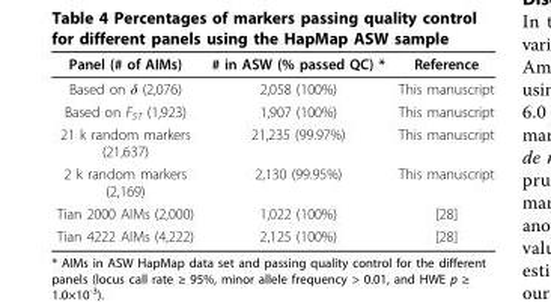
<table><thead><tr><td>Panel (# of AIMs)</td><td># in ASW (% passed QC) *</td><td>Reference</td></tr></thead><tbody><tr><td>Based on δ (2,076)</td><td>2,058 (100%)</td><td>This manuscript</td></tr><tr><td>Based on F<sub>ST</sub> (1,923)</td><td>1,907 (100%)</td><td>This manuscript</td></tr><tr><td>21 k random markers (21,637)</td><td>21,235 (99.97%)</td><td>This manuscript</td></tr><tr><td>2 k random markers (2,169)</td><td>2,130 (99.95%)</td><td>This manuscript</td></tr><tr><td>Tian 2000 AIMs (2,000)</td><td>1,022 (100%)</td><td>[28]</td></tr><tr><td>Tian 4222 AIMs (4,222)</td><td>2,125 (100%)</td><td>[28]</td></tr></tbody></table>